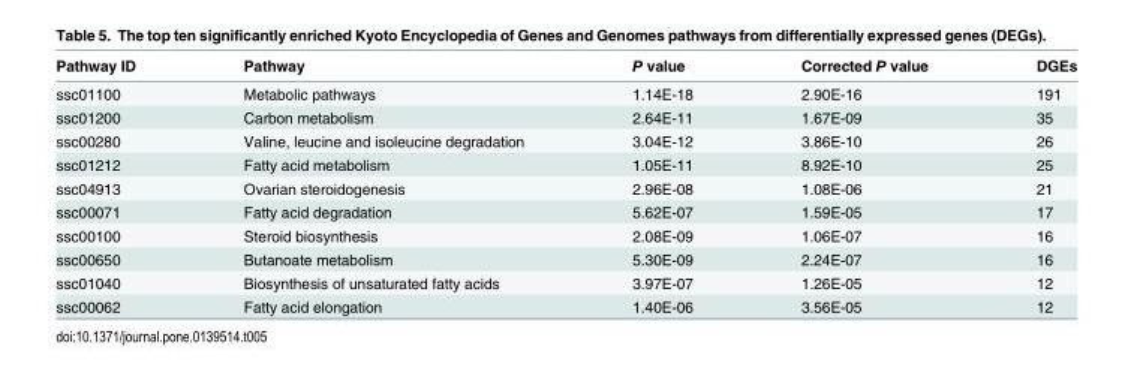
<table><thead><tr><td>Pathway ID</td><td>Pathway</td><td>P value</td><td>Corrected P value</td><td>DGEs</td></tr></thead><tbody><tr><td>ssc01100</td><td>Metabolic pathways</td><td>1.14E-18</td><td>2.90E-16</td><td>191</td></tr><tr><td>ssc01200</td><td>Carbon metabolism</td><td>2.64E-11</td><td>1.67E-09</td><td>35</td></tr><tr><td>ssc00280</td><td>Valine, leucine and isoleucine degradation</td><td>3.04E-12</td><td>3.86E-10</td><td>26</td></tr><tr><td>ssc01212</td><td>Fatty acid metabolism</td><td>1.05E-11</td><td>8.92E-10</td><td>25</td></tr><tr><td>ssc04913</td><td>Ovarian steroidogenesis</td><td>2.96E-08</td><td>1.08E-06</td><td>21</td></tr><tr><td>ssc00071</td><td>Fatty acid degradation</td><td>5.62E-07</td><td>1.59E-05</td><td>17</td></tr><tr><td>ssc00100</td><td>Steroid biosynthesis</td><td>2.08E-09</td><td>1.06E-07</td><td>16</td></tr><tr><td>ssc00650</td><td>Butanoate metabolism</td><td>5.30E-09</td><td>2.24E-07</td><td>16</td></tr><tr><td>ssc01040</td><td>Biosynthesis of unsaturated fatty acids</td><td>3.97E-07</td><td>1.26E-05</td><td>12</td></tr><tr><td>ssc00062</td><td>Fatty acid elongation</td><td>1.40E-06</td><td>3.56E-05</td><td>12</td></tr></tbody></table>